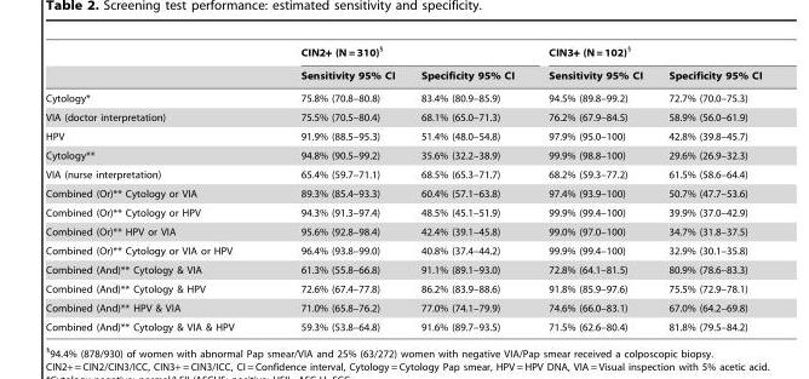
<table><thead><tr><td rowspan="2"></td><td colspan="2">CIN2+ (N = 310)§</td><td colspan="2">CIN3+ (N = 102)§</td></tr><tr><td>Sensitivity 95% CI</td><td>Specificity 95% CI</td><td>Sensitivity 95% CI</td><td>Specificity 95% CI</td></tr></thead><tbody><tr><td>Cytology*</td><td>75.8% (70.8–80.8)</td><td>83.4% (80.9–85.9)</td><td>94.5% (89.8–99.2)</td><td>72.7% (70.0–75.3)</td></tr><tr><td>VIA (doctor interpretation)</td><td>75.5% (70.5–80.4)</td><td>68.1% (65.0–71.3)</td><td>76.2% (67.9–84.5)</td><td>58.9% (56.0–61.9)</td></tr><tr><td>HPV</td><td>91.9% (88.5–95.3)</td><td>51.4% (48.0–54.8)</td><td>97.9% (95.0–100)</td><td>42.8% (39.8–45.7)</td></tr><tr><td>Cytology**</td><td>94.8% (90.5–99.2)</td><td>35.6% (32.2–38.9)</td><td>99.9% (98.8–100)</td><td>29.6% (26.9–32.3)</td></tr><tr><td>VIA (nurse interpretation)</td><td>65.4% (59.7–71.1)</td><td>68.5% (65.3–71.7)</td><td>68.2% (59.3–77.2)</td><td>61.5% (58.6–64.4)</td></tr><tr><td>Combined (Or)** Cytology or VIA</td><td>89.3% (85.4–93.3)</td><td>60.4% (57.1–63.8)</td><td>97.4% (93.9–100)</td><td>50.7% (47.7–53.6)</td></tr><tr><td>Combined (Or)** Cytology or HPV</td><td>94.3% (91.3–97.4)</td><td>48.5% (45.1–51.9)</td><td>99.9% (99.4–100)</td><td>39.9% (37.0–42.9)</td></tr><tr><td>Combined (Or)** HPV or VIA</td><td>95.6% (92.8–98.4)</td><td>42.4% (39.1–45.8)</td><td>99.0% (97.0–100)</td><td>34.7% (31.8–37.5)</td></tr><tr><td>Combined (Or)** Cytology or VIA or HPV</td><td>96.4% (93.8–99.0)</td><td>40.8% (37.4–44.2)</td><td>99.9% (99.4–100)</td><td>32.9% (30.1–35.8)</td></tr><tr><td>Combined (And)** Cytology &amp; VIA</td><td>61.3% (55.8–66.8)</td><td>91.1% (89.1–93.0)</td><td>72.8% (64.1–81.5)</td><td>80.9% (78.6–83.3)</td></tr><tr><td>Combined (And)** Cytology &amp; HPV</td><td>72.6% (67.4–77.8)</td><td>86.2% (83.9–88.6)</td><td>91.8% (85.9–97.6)</td><td>75.5% (72.9–78.1)</td></tr><tr><td>Combined (And)** HPV &amp; VIA</td><td>71.0% (65.8–76.2)</td><td>77.0% (74.1–79.9)</td><td>74.6% (66.0–83.1)</td><td>67.0% (64.2–69.8)</td></tr><tr><td>Combined (And)** Cytology &amp; VIA &amp; HPV</td><td>59.3% (53.8–64.8)</td><td>91.6% (89.7–93.5)</td><td>71.5% (62.6–80.4)</td><td>81.8% (79.5–84.2)</td></tr></tbody></table>